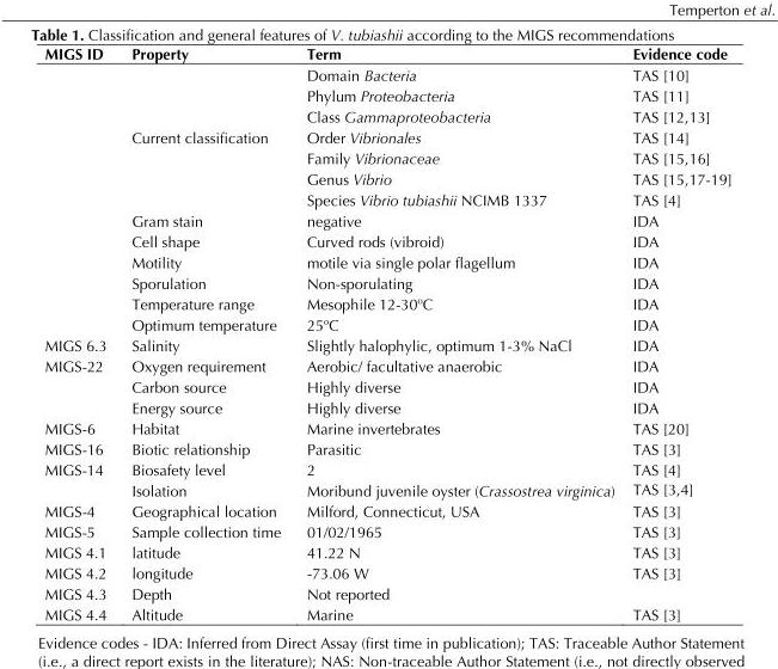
<table><thead><tr><td>MIGS ID</td><td>Property</td><td>Term</td><td>Evidence code</td></tr></thead><tbody><tr><td></td><td></td><td>Domain Bacteria</td><td>TAS [10]</td></tr><tr><td></td><td></td><td>Phylum Proteobacteria</td><td>TAS [11]</td></tr><tr><td></td><td></td><td>Class Gammaproteobacteria</td><td>TAS [12,13]</td></tr><tr><td></td><td>Current classification</td><td>Order Vibrionales</td><td>TAS [14]</td></tr><tr><td></td><td></td><td>Family Vibrionaceae</td><td>TAS [15,16]</td></tr><tr><td></td><td></td><td>Genus Vibrio</td><td>TAS [15,17-19]</td></tr><tr><td></td><td></td><td>Species Vibrio tubiashii NCIMB 1337</td><td>TAS [4]</td></tr><tr><td></td><td>Gram stain</td><td>negative</td><td>IDA</td></tr><tr><td></td><td>Cell shape</td><td>Curved rods (vibroid)</td><td>IDA</td></tr><tr><td></td><td>Motility</td><td>motile via single polar flagellum</td><td>IDA</td></tr><tr><td></td><td>Sporulation</td><td>Non-sporulating</td><td>IDA</td></tr><tr><td></td><td>Temperature range</td><td>Mesophile 12-30<sup>o</sup>C</td><td>IDA</td></tr><tr><td></td><td>Optimum temperature</td><td>25<sup>o</sup>C</td><td>IDA</td></tr><tr><td>MIGS 6.3</td><td>Salinity</td><td>Slightly halophylic, optimum 1-3% NaCl</td><td>IDA</td></tr><tr><td rowspan="3">MIGS-22</td><td>Oxygen requirement</td><td>Aerobic/ facultative anaerobic</td><td>IDA</td></tr><tr><td>Carbon source</td><td>Highly diverse</td><td>IDA</td></tr><tr><td>Energy source</td><td>Highly diverse</td><td>IDA</td></tr><tr><td>MIGS-6</td><td>Habitat</td><td>Marine invertebrates</td><td>TAS [20]</td></tr><tr><td>MIGS-16</td><td>Biotic relationship</td><td>Parasitic</td><td>TAS [3]</td></tr><tr><td rowspan="2">MIGS-14</td><td>Biosafety level</td><td>2</td><td>TAS [4]</td></tr><tr><td>Isolation</td><td>Moribund juvenile oyster (Crassostrea virginica)</td><td>TAS [3,4]</td></tr><tr><td>MIGS-4</td><td>Geographical location</td><td>Milford, Connecticut, USA</td><td>TAS [3]</td></tr><tr><td>MIGS-5</td><td>Sample collection time</td><td>01/02/1965</td><td>TAS [3]</td></tr><tr><td>MIGS 4.1</td><td>latitude</td><td>41.22 N</td><td>TAS [3]</td></tr><tr><td>MIGS 4.2</td><td>longitude</td><td>-73.06 W</td><td>TAS [3]</td></tr><tr><td>MIGS 4.3</td><td>Depth</td><td>Not reported</td><td></td></tr><tr><td>MIGS 4.4</td><td>Altitude</td><td>Marine</td><td>TAS [3]</td></tr></tbody></table>